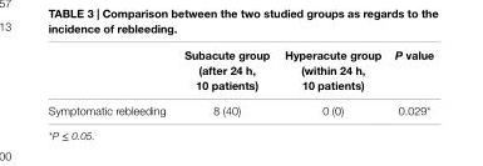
<table><thead><tr><td></td><td>subacute group (after 24 h, 10 patients)</td><td>hyperacute group (within 24 h, 10 patients)</td><td>P value</td></tr></thead><tbody><tr><td>Symptomatic rebleeding</td><td>8 (40)</td><td>0 (0)</td><td>0.029*</td></tr></tbody></table>